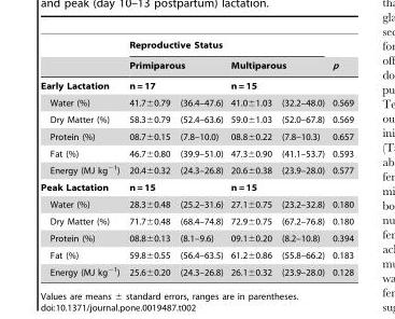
<table><thead><tr><td rowspan="3">Early Lactation</td><td colspan="4">Reproductive Status</td><td rowspan="3">p</td></tr><tr><td colspan="2">Primiparous</td><td colspan="2">Multiparous</td></tr><tr><td>n = 17</td><td></td><td>n = 15</td><td></td></tr></thead><tbody><tr><td>Water (%)</td><td>41.7±0.79</td><td>(36.4–47.6)</td><td>41.0±1.03</td><td>(32.2–48.0)</td><td>0.569</td></tr><tr><td>Dry Matter (%)</td><td>58.3±0.79</td><td>(52.4–63.6)</td><td>59.0±1.03</td><td>(52.0–67.8)</td><td>0.569</td></tr><tr><td>Protein (%)</td><td>08.7±0.15</td><td>(7.8–10.0)</td><td>08.8±0.22</td><td>(7.8–10.3)</td><td>0.657</td></tr><tr><td>Fat (%)</td><td>46.7±0.80</td><td>(39.9–51.0)</td><td>47.3±0.90</td><td>(41.1–53.7)</td><td>0.593</td></tr><tr><td>Energy (MJ kg<sup>−1</sup>)</td><td>20.4±0.32</td><td>(24.3–26.8)</td><td>20.6±0.38</td><td>(23.9–28.0)</td><td>0.577</td></tr><tr><td>Peak Lactation</td><td>n = 15</td><td></td><td>n = 15</td><td></td><td></td></tr><tr><td>Water (%)</td><td>28.3±0.48</td><td>(25.2–31.6)</td><td>27.1±0.75</td><td>(23.2–32.8)</td><td>0.180</td></tr><tr><td>Dry Matter (%)</td><td>71.7±0.48</td><td>(68.4–74.8)</td><td>72.9±0.75</td><td>(67.2–76.8)</td><td>0.180</td></tr><tr><td>Protein (%)</td><td>08.8±0.13</td><td>(8.1–9.6)</td><td>09.1±0.20</td><td>(8.2–10.8)</td><td>0.394</td></tr><tr><td>Fat (%)</td><td>59.8±0.55</td><td>(56.4–63.5)</td><td>61.2±0.86</td><td>(55.8–66.2)</td><td>0.183</td></tr><tr><td>Energy (MJ kg<sup>−1</sup>)</td><td>25.6±0.20</td><td>(24.3–26.8)</td><td>26.1±0.32</td><td>(23.9–28.0)</td><td>0.128</td></tr></tbody></table>